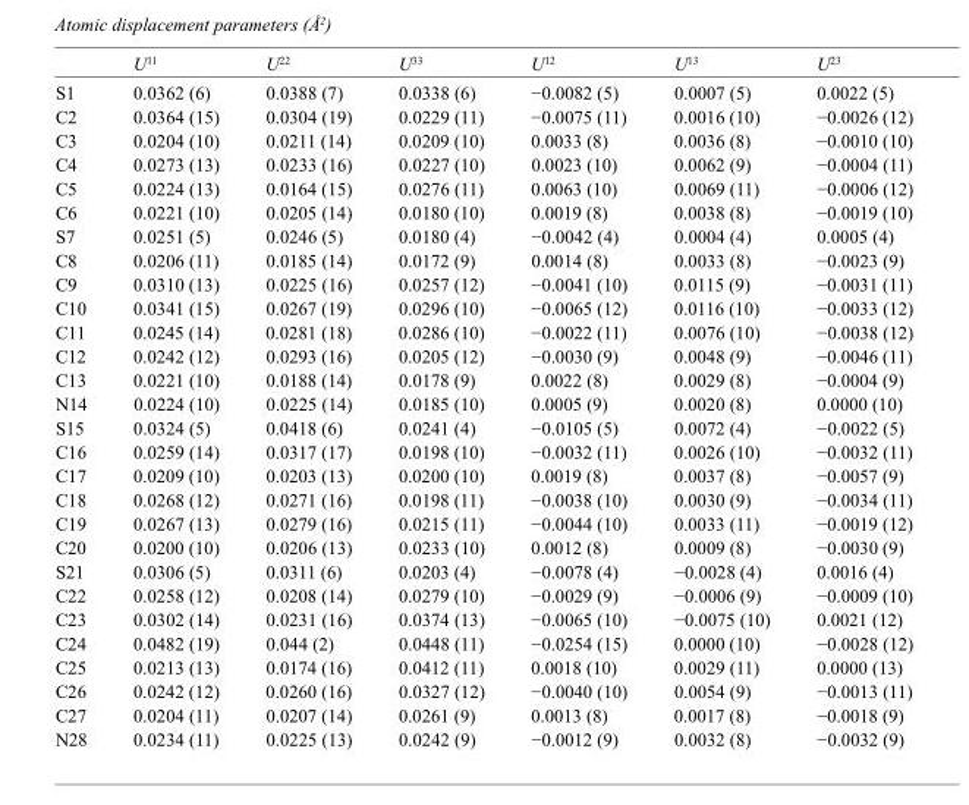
<table><thead><tr><td></td><td>U<sup>11</sup></td><td>U<sup>22</sup></td><td>U<sup>33</sup></td><td>U<sup>12</sup></td><td>U<sup>13</sup></td><td>U<sup>23</sup></td></tr></thead><tbody><tr><td>S1</td><td>0.0362 (6)</td><td>0.0388 (7)</td><td>0.0338 (6)</td><td>−0.0082 (5)</td><td>0.0007 (5)</td><td>0.0022 (5)</td></tr><tr><td>C2</td><td>0.0364 (15)</td><td>0.0304 (19)</td><td>0.0229 (11)</td><td>−0.0075 (11)</td><td>0.0016 (10)</td><td>−0.0026 (12)</td></tr><tr><td>C3</td><td>0.0204 (10)</td><td>0.0211 (14)</td><td>0.0209 (10)</td><td>0.0033 (8)</td><td>0.0036 (8)</td><td>−0.0010 (10)</td></tr><tr><td>C4</td><td>0.0273 (13)</td><td>0.0233 (16)</td><td>0.0227 (10)</td><td>0.0023 (10)</td><td>0.0062 (9)</td><td>−0.0004 (11)</td></tr><tr><td>C5</td><td>0.0224 (13)</td><td>0.0164 (15)</td><td>0.0276 (11)</td><td>0.0063 (10)</td><td>0.0069 (11)</td><td>−0.0006 (12)</td></tr><tr><td>C6</td><td>0.0221 (10)</td><td>0.0205 (14)</td><td>0.0180 (10)</td><td>0.0019 (8)</td><td>0.0038 (8)</td><td>−0.0019 (10)</td></tr><tr><td>S7</td><td>0.0251 (5)</td><td>0.0246 (5)</td><td>0.0180 (4)</td><td>−0.0042 (4)</td><td>0.0004 (4)</td><td>0.0005 (4)</td></tr><tr><td>C8</td><td>0.0206 (11)</td><td>0.0185 (14)</td><td>0.0172 (9)</td><td>0.0014 (8)</td><td>0.0033 (8)</td><td>−0.0023 (9)</td></tr><tr><td>C9</td><td>0.0310 (13)</td><td>0.0225 (16)</td><td>0.0257 (12)</td><td>−0.0041 (10)</td><td>0.0115 (9)</td><td>−0.0031 (11)</td></tr><tr><td>C10</td><td>0.0341 (15)</td><td>0.0267 (19)</td><td>0.0296 (10)</td><td>−0.0065 (12)</td><td>0.0116 (10)</td><td>−0.0033 (12)</td></tr><tr><td>C11</td><td>0.0245 (14)</td><td>0.0281 (18)</td><td>0.0286 (10)</td><td>−0.0022 (11)</td><td>0.0076 (10)</td><td>−0.0038 (12)</td></tr><tr><td>C12</td><td>0.0242 (12)</td><td>0.0293 (16)</td><td>0.0205 (12)</td><td>−0.0030 (9)</td><td>0.0048 (9)</td><td>−0.0046 (11)</td></tr><tr><td>C13</td><td>0.0221 (10)</td><td>0.0188 (14)</td><td>0.0178 (9)</td><td>0.0022 (8)</td><td>0.0029 (8)</td><td>−0.0004 (9)</td></tr><tr><td>N14</td><td>0.0224 (10)</td><td>0.0225 (14)</td><td>0.0185 (10)</td><td>0.0005 (9)</td><td>0.0020 (8)</td><td>0.0000 (10)</td></tr><tr><td>S15</td><td>0.0324 (5)</td><td>0.0418 (6)</td><td>0.0241 (4)</td><td>−0.0105 (5)</td><td>0.0072 (4)</td><td>−0.0022 (5)</td></tr><tr><td>C16</td><td>0.0259 (14)</td><td>0.0317 (17)</td><td>0.0198 (10)</td><td>−0.0032 (11)</td><td>0.0026 (10)</td><td>−0.0032 (11)</td></tr><tr><td>C17</td><td>0.0209 (10)</td><td>0.0203 (13)</td><td>0.0200 (10)</td><td>0.0019 (8)</td><td>0.0037 (8)</td><td>−0.0057 (9)</td></tr><tr><td>C18</td><td>0.0268 (12)</td><td>0.0271 (16)</td><td>0.0198 (11)</td><td>−0.0038 (10)</td><td>0.0030 (9)</td><td>−0.0034 (11)</td></tr><tr><td>C19</td><td>0.0267 (13)</td><td>0.0279 (16)</td><td>0.0215 (11)</td><td>−0.0044 (10)</td><td>0.0033 (11)</td><td>−0.0019 (12)</td></tr><tr><td>C20</td><td>0.0200 (10)</td><td>0.0206 (13)</td><td>0.0233 (10)</td><td>0.0012 (8)</td><td>0.0009 (8)</td><td>−0.0030 (9)</td></tr><tr><td>S21</td><td>0.0306 (5)</td><td>0.0311 (6)</td><td>0.0203 (4)</td><td>−0.0078 (4)</td><td>−0.0028 (4)</td><td>0.0016 (4)</td></tr><tr><td>C22</td><td>0.0258 (12)</td><td>0.0208 (14)</td><td>0.0279 (10)</td><td>−0.0029 (9)</td><td>−0.0006 (9)</td><td>−0.0009 (10)</td></tr><tr><td>C23</td><td>0.0302 (14)</td><td>0.0231 (16)</td><td>0.0374 (13)</td><td>−0.0065 (10)</td><td>−0.0075 (10)</td><td>0.0021 (12)</td></tr><tr><td>C24</td><td>0.0482 (19)</td><td>0.044 (2)</td><td>0.0448 (11)</td><td>−0.0254 (15)</td><td>0.0000 (10)</td><td>−0.0028 (12)</td></tr><tr><td>C25</td><td>0.0213 (13)</td><td>0.0174 (16)</td><td>0.0412 (11)</td><td>0.0018 (10)</td><td>0.0029 (11)</td><td>0.0000 (13)</td></tr><tr><td>C26</td><td>0.0242 (12)</td><td>0.0260 (16)</td><td>0.0327 (12)</td><td>−0.0040 (10)</td><td>0.0054 (9)</td><td>−0.0013 (11)</td></tr><tr><td>C27</td><td>0.0204 (11)</td><td>0.0207 (14)</td><td>0.0261 (9)</td><td>0.0013 (8)</td><td>0.0017 (8)</td><td>−0.0018 (9)</td></tr><tr><td>N28</td><td>0.0234 (11)</td><td>0.0225 (13)</td><td>0.0242 (9)</td><td>−0.0012 (9)</td><td>0.0032 (8)</td><td>−0.0032 (9)</td></tr></tbody></table>